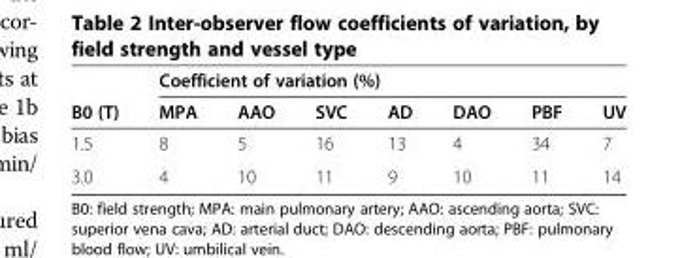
<table><thead><tr><td rowspan="2">B0 (T)</td><td colspan="7">Coefficient of variation (%)</td></tr><tr><td>MPA</td><td>AAO</td><td>SVC</td><td>AD</td><td>DAO</td><td>PBF</td><td>UV</td></tr></thead><tbody><tr><td>1.5</td><td>8</td><td>5</td><td>16</td><td>13</td><td>4</td><td>34</td><td>7</td></tr><tr><td>3.0</td><td>4</td><td>10</td><td>11</td><td>9</td><td>10</td><td>11</td><td>14</td></tr></tbody></table>